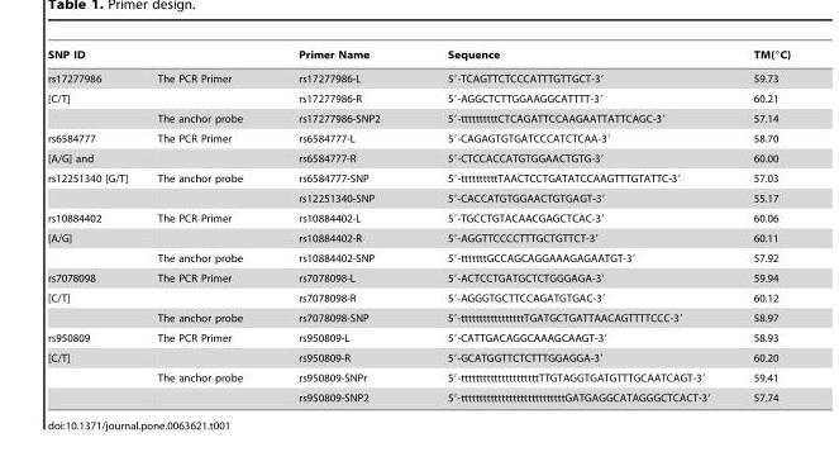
<table><thead><tr><td>SNP ID</td><td></td><td>Primer Name</td><td>Sequence</td><td>TM(°C)</td></tr></thead><tbody><tr><td>rs17277986</td><td>The PCR Primer</td><td>rs17277986-L</td><td>5′-TCAGTTCTCCCATTTGTTGCT-3′</td><td>59.73</td></tr><tr><td rowspan="2">[C/T]</td><td></td><td>rs17277986-R</td><td>5′-AGGCTCTTGGAAGGCATTTT-3′</td><td>60.21</td></tr><tr><td>The anchor probe</td><td>rs17277986-SNP2</td><td>5′-ttttttttttCTCAGATTCCAAGAATTATTCAGC-3′</td><td>57.14</td></tr><tr><td>rs6584777</td><td>The PCR Primer</td><td>rs6584777-L</td><td>5′-CAGAGTGTGATCCCATCTCAA-3′</td><td>58.70</td></tr><tr><td>[A/G] and</td><td></td><td>rs6584777-R</td><td>5′-CTCCACCATGTGGAACTGTG-3′</td><td>60.00</td></tr><tr><td rowspan="2">rs12251340 [G/T]</td><td>The anchor probe</td><td>rs6584777-SNP</td><td>5′-ttttttttttTAACTCCTGATATCCAAGTTTGTATTC-3′</td><td>57.03</td></tr><tr><td></td><td>rs12251340-SNP</td><td>5′-CACCATGTGGAACTGTGAGT-3′</td><td>55.17</td></tr><tr><td>rs10884402</td><td>The PCR Primer</td><td>rs10884402-L</td><td>5′-TGCCTGTACAACGAGCTCAC-3′</td><td>60.06</td></tr><tr><td rowspan="2">[A/G]</td><td></td><td>rs10884402-R</td><td>5′-AGGTTCCCCTTTGCTGTTCT-3′</td><td>60.11</td></tr><tr><td>The anchor probe</td><td>rs10884402-SNP</td><td>5′-tttttttGCCAGCAGGAAAGAGAATGT-3′</td><td>57.92</td></tr><tr><td>rs7078098</td><td>The PCR Primer</td><td>rs7078098-L</td><td>5′-ACTCCTGATGCTCTGGGAGA-3′</td><td>59.94</td></tr><tr><td rowspan="2">[C/T]</td><td></td><td>rs7078098-R</td><td>5′-AGGGTGCTTCCAGATGTGAC-3′</td><td>60.12</td></tr><tr><td>The anchor probe</td><td>rs7078098-SNP</td><td>5′-tttttttttttttttttTGATGCTGATTAACAGTTTTCCC-3′</td><td>58.97</td></tr><tr><td>rs950809</td><td>The PCR Primer</td><td>rs950809-L</td><td>5′-CATTGACAGGCAAAGCAAGT-3′</td><td>58.93</td></tr><tr><td rowspan="3">[C/T]</td><td></td><td>rs950809-R</td><td>5′-GCATGGTTCTCTTTGGAGGA-3′</td><td>60.20</td></tr><tr><td>The anchor probe</td><td>rs950809-SNPr</td><td>5′-tttttttttttttttttttttTTGTAGGTGATGTTTGCAATCAGT-3′</td><td>59.41</td></tr><tr><td></td><td>rs950809-SNP2</td><td>5′-ttttttttttttttttttttttttttttGATGAGGCATAGGGCTCACT-3′</td><td>57.74</td></tr></tbody></table>